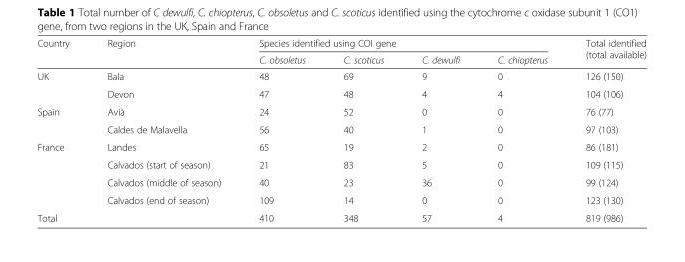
<table><thead><tr><td rowspan="2">Country</td><td rowspan="2">Region</td><td colspan="4">Species identified using COI gene</td><td rowspan="2">Total identified (total available)</td></tr><tr><td>C. obsoletus</td><td>C. scoticus</td><td>C. dewulfi</td><td>C. chiopterus</td></tr></thead><tbody><tr><td rowspan="2">UK</td><td>Bala</td><td>48</td><td>69</td><td>9</td><td>0</td><td>126 (150)</td></tr><tr><td>Devon</td><td>47</td><td>48</td><td>4</td><td>4</td><td>104 (106)</td></tr><tr><td rowspan="2">Spain</td><td>Avià</td><td>24</td><td>52</td><td>0</td><td>0</td><td>76 (77)</td></tr><tr><td>Caldes de Malavella</td><td>56</td><td>40</td><td>1</td><td>0</td><td>97 (103)</td></tr><tr><td rowspan="4">France</td><td>Landes</td><td>65</td><td>19</td><td>2</td><td>0</td><td>86 (181)</td></tr><tr><td>Calvados (start of season)</td><td>21</td><td>83</td><td>5</td><td>0</td><td>109 (115)</td></tr><tr><td>Calvados (middle of season)</td><td>40</td><td>23</td><td>36</td><td>0</td><td>99 (124)</td></tr><tr><td>Calvados (end of season)</td><td>109</td><td>14</td><td>0</td><td>0</td><td>123 (130)</td></tr><tr><td colspan="2">Total</td><td>410</td><td>348</td><td>57</td><td>4</td><td>819 (986)</td></tr></tbody></table>